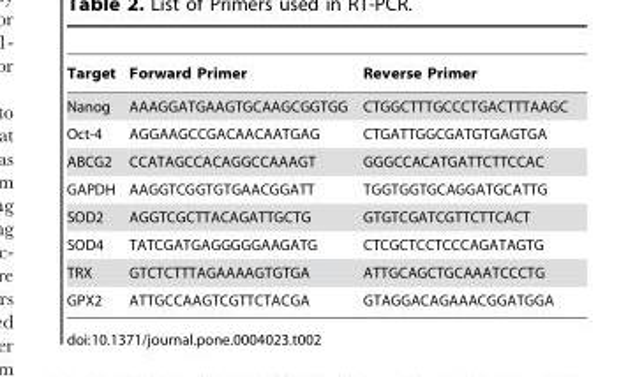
<table><thead><tr><td>Target</td><td>Forward Primer</td><td>Reverse Primer</td></tr></thead><tbody><tr><td>Nanog</td><td>AAAGGATGAAGTGCAAGCGGTGG</td><td>CTGGCTTTGCCCTGACTTTAAGC</td></tr><tr><td>Oct-4</td><td>AGGAAGCCGACAACAATGAG</td><td>CTGATTGGCGATGTGAGTGA</td></tr><tr><td>ABCG2</td><td>CCATAGCCACAGGCCAAAGT</td><td>GGGCCACATGATTCTTCCAC</td></tr><tr><td>GAPDH</td><td>AAGGTCGGTGTGAACGGATT</td><td>TGGTGGTGCAGGATGCATTG</td></tr><tr><td>SOD2</td><td>AGGTCGCTTACAGATTGCTG</td><td>GTGTCGATCGTTCTTCACT</td></tr><tr><td>SOD4</td><td>TATCGATGAGGGGGAAGATG</td><td>CTCGCTCCTCCCAGATAGTG</td></tr><tr><td>TRX</td><td>GTCTCTTTAGAAAAGTGTGA</td><td>ATTGCAGCTGCAAATCCCTG</td></tr><tr><td>GPX2</td><td>ATTGCCAAGTCGTTCTACGA</td><td>GTAGGACAGAAACGGATGGA</td></tr></tbody></table>